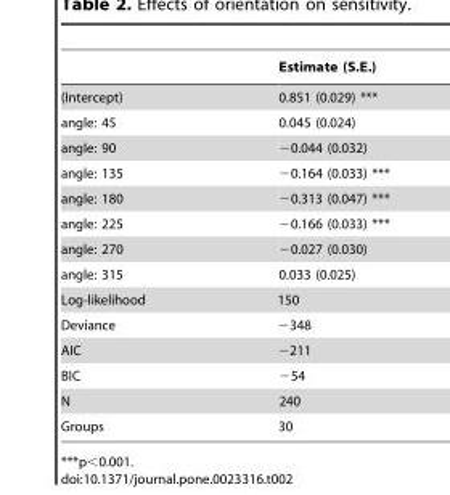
<table><thead><tr><td></td><td>Estimate (S.E.)</td></tr></thead><tbody><tr><td>(Intercept)</td><td>0.851 (0.029) ***</td></tr><tr><td>angle: 45</td><td>0.045 (0.024)</td></tr><tr><td>angle: 90</td><td>−0.044 (0.032)</td></tr><tr><td>angle: 135</td><td>−0.164 (0.033) ***</td></tr><tr><td>angle: 180</td><td>−0.313 (0.047) ***</td></tr><tr><td>angle: 225</td><td>−0.166 (0.033) ***</td></tr><tr><td>angle: 270</td><td>−0.027 (0.030)</td></tr><tr><td>angle: 315</td><td>0.033 (0.025)</td></tr><tr><td colspan="2">Log-likelihood 150</td></tr><tr><td colspan="2">Deviance −348</td></tr><tr><td colspan="2">AIC −211</td></tr><tr><td colspan="2">BIC −54</td></tr><tr><td colspan="2">N 240</td></tr><tr><td colspan="2">Groups 30</td></tr></tbody></table>